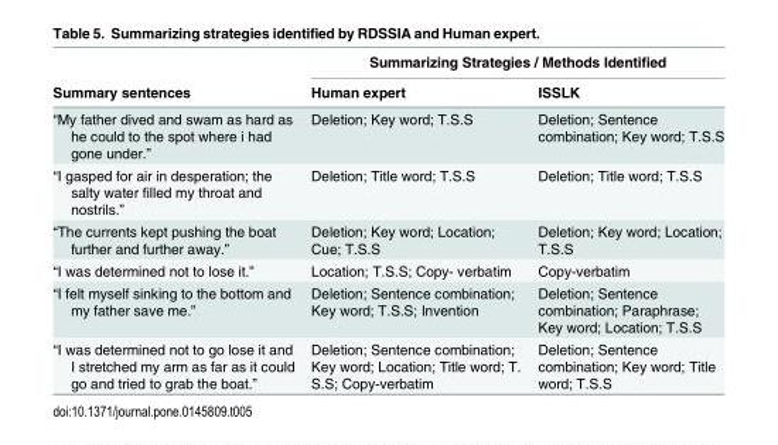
<table><thead><tr><td rowspan="2">Summary sentences</td><td colspan="2">Summarizing Strategies / Methods Identified</td></tr><tr><td>Human expert</td><td>ISSLK</td></tr></thead><tbody><tr><td>“My father dived and swam as hard as he could to the spot where i had gone under.”</td><td>Deletion; Key word; T.S.S</td><td>Deletion; Sentence combination; Key word; T.S.S</td></tr><tr><td>“I gasped for air in desperation; the salty water filled my throat and nostrils.”</td><td>Deletion; Title word; T.S.S</td><td>Deletion; Title word; T.S.S</td></tr><tr><td>“The currents kept pushing the boat further and further away.”</td><td>Deletion; Key word; Location; Cue; T.S.S</td><td>Deletion; Key word; Location; T.S.S</td></tr><tr><td>“I was determined not to lose it.”</td><td>Location; T.S.S; Copy- verbatim</td><td>Copy-verbatim</td></tr><tr><td>“I felt myself sinking to the bottom and my father save me.”</td><td>Deletion; Sentence combination; Key word; T.S.S; Invention</td><td>Deletion; Sentence combination; Paraphrase; Key word; Location; T.S.S</td></tr><tr><td>“I was determined not to go lose it and I stretched my arm as far as it could go and tried to grab the boat.”</td><td>Deletion; Sentence combination; Key word; Location; Title word; T. S.S; Copy-verbatim</td><td>Deletion; Sentence combination; Key word; Title word; T.S.S</td></tr></tbody></table>